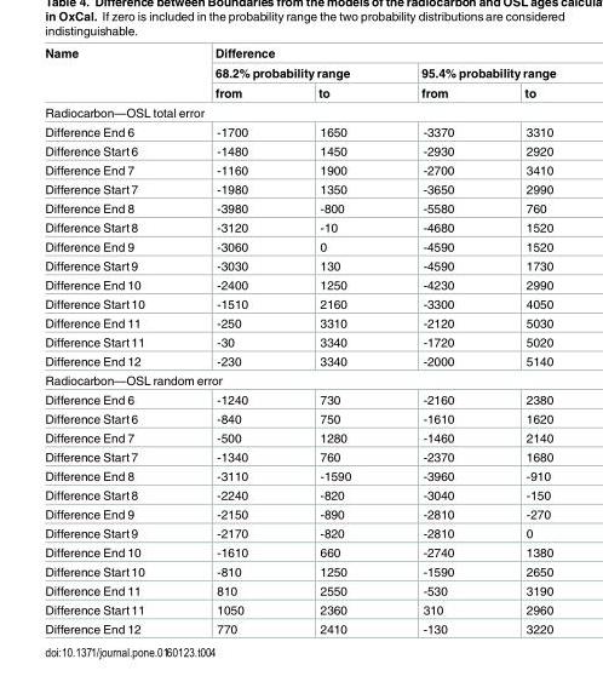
<table><thead><tr><td rowspan="3">Name</td><td colspan="4">Difference</td></tr><tr><td colspan="2">68.2% probability range</td><td colspan="2">95.4% probability range</td></tr><tr><td>from</td><td>to</td><td>from</td><td>to</td></tr></thead><tbody><tr><td colspan="5">Radiocarbon—OSL total error</td></tr><tr><td>Difference End 6</td><td>-1700</td><td>1650</td><td>-3370</td><td>3310</td></tr><tr><td>Difference Start 6</td><td>-1480</td><td>1450</td><td>-2930</td><td>2920</td></tr><tr><td>Difference End 7</td><td>-1160</td><td>1900</td><td>-2700</td><td>3410</td></tr><tr><td>Difference Start 7</td><td>-1980</td><td>1350</td><td>-3650</td><td>2990</td></tr><tr><td>Difference End 8</td><td>-3980</td><td>-800</td><td>-5580</td><td>760</td></tr><tr><td>Difference Start 8</td><td>-3120</td><td>-10</td><td>-4680</td><td>1520</td></tr><tr><td>Difference End 9</td><td>-3060</td><td>0</td><td>-4590</td><td>1520</td></tr><tr><td>Difference Start 9</td><td>-3030</td><td>130</td><td>-4590</td><td>1730</td></tr><tr><td>Difference End 10</td><td>-2400</td><td>1250</td><td>-4230</td><td>2990</td></tr><tr><td>Difference Start 10</td><td>-1510</td><td>2160</td><td>-3300</td><td>4050</td></tr><tr><td>Difference End 11</td><td>-250</td><td>3310</td><td>-2120</td><td>5030</td></tr><tr><td>Difference Start 11</td><td>-30</td><td>3340</td><td>-1720</td><td>5020</td></tr><tr><td>Difference End 12</td><td>-230</td><td>3340</td><td>-2000</td><td>5140</td></tr><tr><td colspan="5">Radiocarbon—OSL random error</td></tr><tr><td>Difference End 6</td><td>-1240</td><td>730</td><td>-2160</td><td>2380</td></tr><tr><td>Difference Start 6</td><td>-840</td><td>750</td><td>-1610</td><td>1620</td></tr><tr><td>Difference End 7</td><td>-500</td><td>1280</td><td>-1460</td><td>2140</td></tr><tr><td>Difference Start 7</td><td>-1340</td><td>760</td><td>-2370</td><td>1680</td></tr><tr><td>Difference End 8</td><td>-3110</td><td>-1590</td><td>-3960</td><td>-910</td></tr><tr><td>Difference Start 8</td><td>-2240</td><td>-820</td><td>-3040</td><td>-150</td></tr><tr><td>Difference End 9</td><td>-2150</td><td>-890</td><td>-2810</td><td>-270</td></tr><tr><td>Difference Start 9</td><td>-2170</td><td>-820</td><td>-2810</td><td>0</td></tr><tr><td>Difference End 10</td><td>-1610</td><td>660</td><td>-2740</td><td>1380</td></tr><tr><td>Difference Start 10</td><td>-810</td><td>1250</td><td>-1590</td><td>2650</td></tr><tr><td>Difference End 11</td><td>810</td><td>2550</td><td>-530</td><td>3190</td></tr><tr><td>Difference Start 11</td><td>1050</td><td>2360</td><td>310</td><td>2960</td></tr><tr><td>Difference End 12</td><td>770</td><td>2410</td><td>-130</td><td>3220</td></tr></tbody></table>